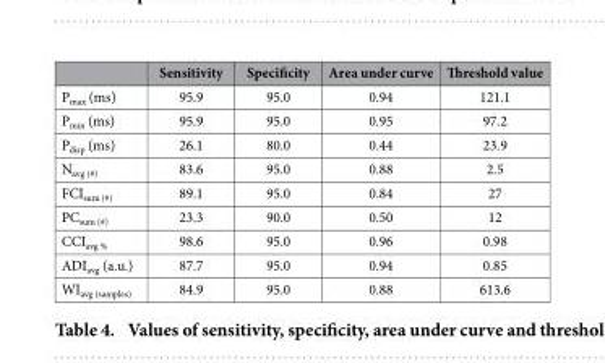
<table><thead><tr><td></td><td>Sensitivity</td><td>Specificity</td><td>Area under curve</td><td>Threshold value</td></tr></thead><tbody><tr><td>P<sub>max</sub> (ms)</td><td>95.9</td><td>95.0</td><td>0.94</td><td>121.1</td></tr><tr><td>P<sub>min</sub> (ms)</td><td>95.9</td><td>95.0</td><td>0.95</td><td>97.2</td></tr><tr><td>P<sub>disp</sub> (ms)</td><td>26.1</td><td>80.0</td><td>0.44</td><td>23.9</td></tr><tr><td>N<sub>avg (#)</sub></td><td>83.6</td><td>95.0</td><td>0.88</td><td>2.5</td></tr><tr><td>FCI<sub>sum (#)</sub></td><td>89.1</td><td>95.0</td><td>0.84</td><td>27</td></tr><tr><td>PC<sub>sum (#)</sub></td><td>23.3</td><td>90.0</td><td>0.50</td><td>12</td></tr><tr><td>CCI<sub>avg %</sub></td><td>98.6</td><td>95.0</td><td>0.96</td><td>0.98</td></tr><tr><td>ADI<sub>avg</sub> (a.u.)</td><td>87.7</td><td>95.0</td><td>0.94</td><td>0.85</td></tr><tr><td>WI<sub>avg (samples)</sub></td><td>84.9</td><td>95.0</td><td>0.88</td><td>613.6</td></tr></tbody></table>